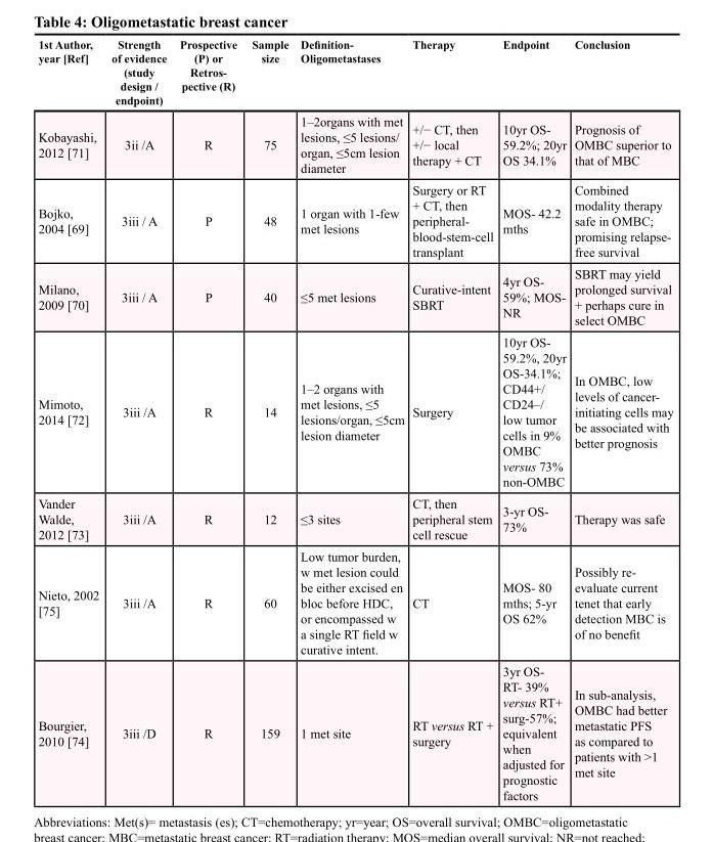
<table><thead><tr><td>1st Author, year [Ref]</td><td>Strength of evidence (study design / endpoint)</td><td>Pros pective (P) or Retros pective (R)</td><td>Sample size</td><td>Definition- Oligometastases</td><td>Therapy</td><td>Endpoint</td><td>Conclusion</td></tr></thead><tbody><tr><td>Kobayashi, 2012 [71]</td><td>3ii /A</td><td>R</td><td>75</td><td>1–2organs with met lesions, ≤5 lesions/ organ, ≤5cm lesion diameter</td><td>+/− CT, then +/− local therapy + CT</td><td>10yr OS- 59.2%; 20yr OS 34.1%</td><td>Prognosis of OMBC superior to that of MBC</td></tr><tr><td>Bojko, 2004 [69]</td><td>3iii / A</td><td>P</td><td>48</td><td>1 organ with 1-few met lesions</td><td>Surgery or RT + CT, then peripheral- blood-stem-cell transplant</td><td>MOS- 42.2 mths</td><td>Combined modality therapy safe in OMBC; promising relapse- free survival</td></tr><tr><td>Milano, 2009 [70]</td><td>3iii / A</td><td>P</td><td>40</td><td>≤5 met lesions</td><td>Curative-intent SBRT</td><td>4yr OS- 59%; MOS- NR</td><td>SBRT may yield prolonged survival + perhaps cure in select OMBC</td></tr><tr><td>Mimoto, 2014 [72]</td><td>3iii /A</td><td>R</td><td>14</td><td>1–2 organs with met lesions, ≤5 lesions/organ, ≤5cm lesion diameter</td><td>Surgery</td><td>10yr OS- 59.2%, 20yr OS-34.1%; CD44+/ CD24–/ low tumor cells in 9% OMBC versus 73% non-OMBC</td><td>In OMBC, low levels of cancer- initiating cells may be associated with better prognosis</td></tr><tr><td>Vander Walde, 2012 [73]</td><td>3iii /A</td><td>R</td><td>12</td><td>≤3 sites</td><td>CT, then peripheral stem cell rescue</td><td>3-yr OS- 73%</td><td>Therapy was safe</td></tr><tr><td>Nieto, 2002 [75]</td><td>3iii /A</td><td>R</td><td>60</td><td>Low tumor burden, w met lesion could be either excised en bloc before HDC, or encompassed w a single RT field w curative intent.</td><td>CT</td><td>MOS- 80 mths; 5-yr OS 62%</td><td>Possibly re- evaluate current tenet that early detection MBC is of no benefit</td></tr><tr><td>Bourgier, 2010 [74]</td><td>3iii /D</td><td>R</td><td>159</td><td>1 met site</td><td>RT versus RT + surgery</td><td>3yr OS- RT- 39% versus RT+ surg-57%; equivalent when adjusted for prognostic factors</td><td>In sub-analysis, OMBC had better metastatic PFS as compared to patients with &gt;1 met site</td></tr></tbody></table>